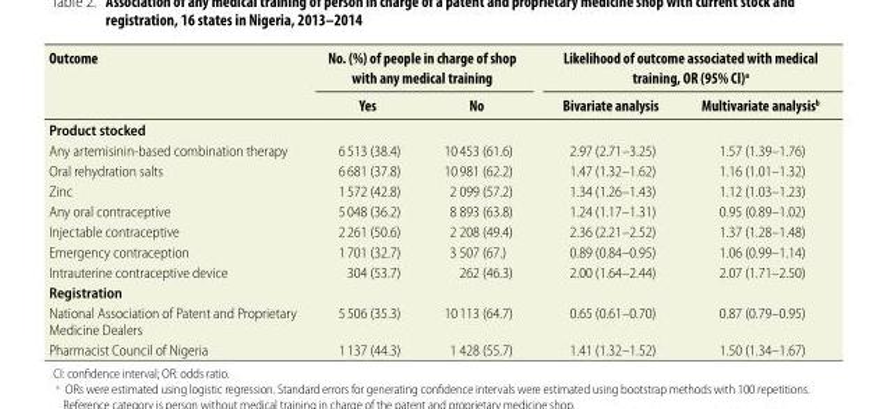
<table><thead><tr><td rowspan="2">Outcome</td><td colspan="2">No. (%) of people in charge of shop with any medical training</td><td colspan="2">Likelihood of outcome associated with medical training, OR (95% CI)<sup>a</sup></td></tr><tr><td>Yes</td><td>No</td><td>Bivariate analysis</td><td>Multivariate analysis<sup>b</sup></td></tr></thead><tbody><tr><td colspan="5">Product stocked</td></tr><tr><td>Any artemisinin-based combination therapy</td><td>6 513 (38.4)</td><td>10 453 (61.6)</td><td>2.97 (2.71–3.25)</td><td>1.57 (1.39–1.76)</td></tr><tr><td>Oral rehydration salts</td><td>6 681 (37.8)</td><td>10 981 (62.2)</td><td>1.47 (1.32–1.62)</td><td>1.16 (1.01–1.32)</td></tr><tr><td>Zinc</td><td>1 572 (42.8)</td><td>2 099 (57.2)</td><td>1.34 (1.26–1.43)</td><td>1.12 (1.03–1.23)</td></tr><tr><td>Any oral contraceptive</td><td>5 048 (36.2)</td><td>8 893 (63.8)</td><td>1.24 (1.17–1.31)</td><td>0.95 (0.89–1.02)</td></tr><tr><td>Injectable contraceptive</td><td>2 261 (50.6)</td><td>2 208 (49.4)</td><td>2.36 (2.21–2.52)</td><td>1.37 (1.28–1.48)</td></tr><tr><td>Emergency contraception</td><td>1 701 (32.7)</td><td>3 507 (67.)</td><td>0.89 (0.84–0.95)</td><td>1.06 (0.99–1.14)</td></tr><tr><td>Intrauterine contraceptive device</td><td>304 (53.7)</td><td>262 (46.3)</td><td>2.00 (1.64–2.44)</td><td>2.07 (1.71–2.50)</td></tr><tr><td colspan="5">Registration</td></tr><tr><td>National Association of Patent and Proprietary Medicine Dealers</td><td>5 506 (35.3)</td><td>10 113 (64.7)</td><td>0.65 (0.61–0.70)</td><td>0.87 (0.79–0.95)</td></tr><tr><td>Pharmacist Council of Nigeria</td><td>1 137 (44.3)</td><td>1 428 (55.7)</td><td>1.41 (1.32–1.52)</td><td>1.50 (1.34–1.67)</td></tr></tbody></table>